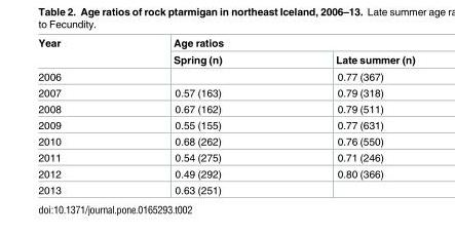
<table><thead><tr><td rowspan="2">Year</td><td colspan="2">Age ratios</td></tr><tr><td>Spring (n)</td><td>Late summer (n)</td></tr></thead><tbody><tr><td>2006</td><td></td><td>0.77 (367)</td></tr><tr><td>2007</td><td>0.57 (163)</td><td>0.79 (318)</td></tr><tr><td>2008</td><td>0.67 (162)</td><td>0.79 (511)</td></tr><tr><td>2009</td><td>0.55 (155)</td><td>0.77 (631)</td></tr><tr><td>2010</td><td>0.68 (262)</td><td>0.76 (550)</td></tr><tr><td>2011</td><td>0.54 (275)</td><td>0.71 (246)</td></tr><tr><td>2012</td><td>0.49 (292)</td><td>0.80 (366)</td></tr><tr><td>2013</td><td>0.63 (251)</td><td></td></tr></tbody></table>